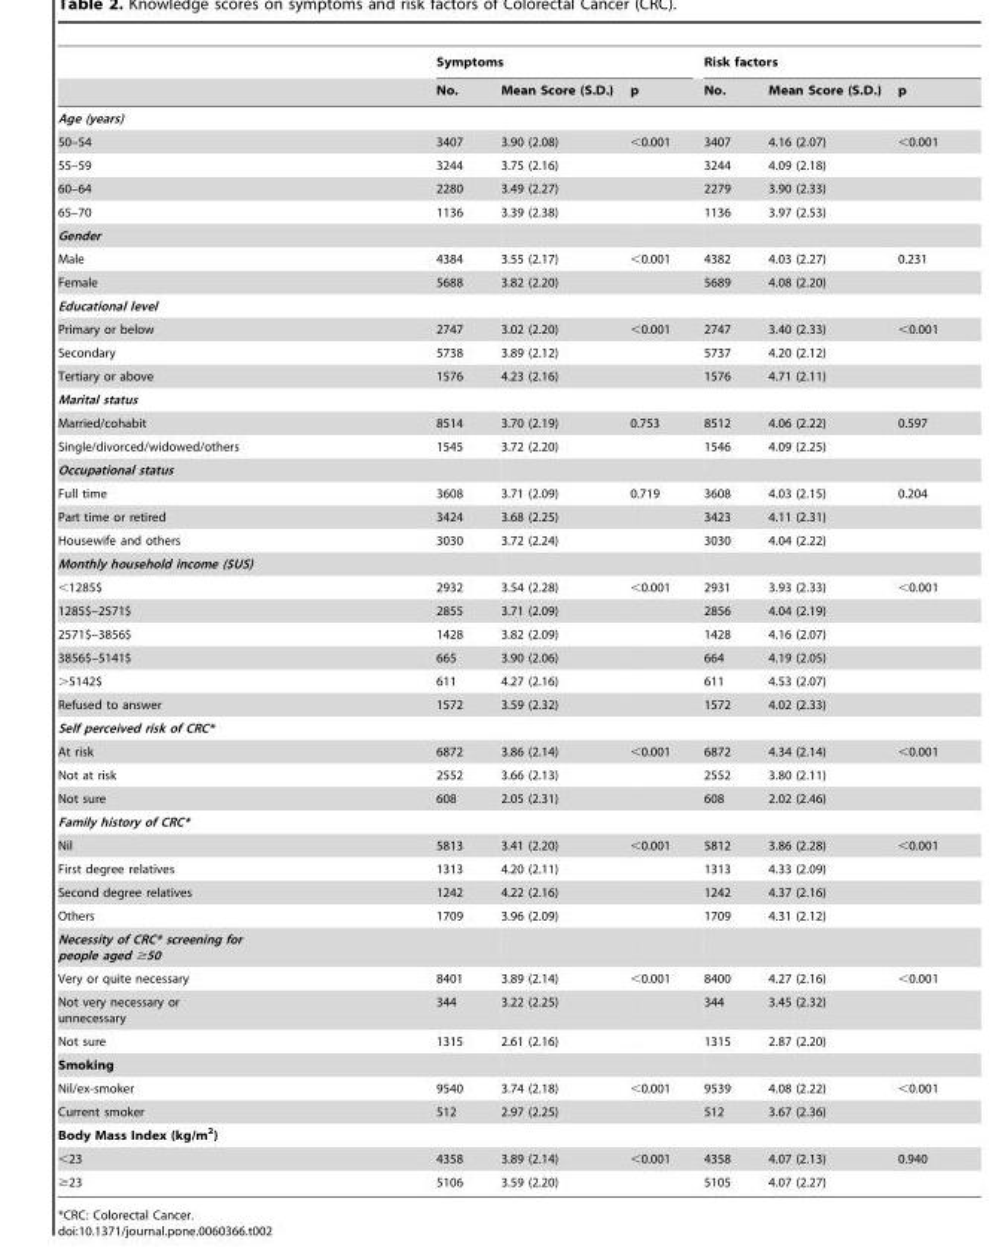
<table><thead><tr><td rowspan="2"></td><td colspan="3">Symptoms</td><td colspan="3">Risk factors</td></tr><tr><td>No.</td><td>Mean Score (S.D.)</td><td>p</td><td>No.</td><td>Mean Score (S.D.)</td><td>p</td></tr></thead><tbody><tr><td colspan="7">Age (years)</td></tr><tr><td>50–54</td><td>3407</td><td>3.90 (2.08)</td><td>&lt;0.001</td><td>3407</td><td>4.16 (2.07)</td><td>&lt;0.001</td></tr><tr><td>55–59</td><td>3244</td><td>3.75 (2.16)</td><td></td><td>3244</td><td>4.09 (2.18)</td><td></td></tr><tr><td>60–64</td><td>2280</td><td>3.49 (2.27)</td><td></td><td>2279</td><td>3.90 (2.33)</td><td></td></tr><tr><td>65–70</td><td>1136</td><td>3.39 (2.38)</td><td></td><td>1136</td><td>3.97 (2.53)</td><td></td></tr><tr><td colspan="7">Gender</td></tr><tr><td>Male</td><td>4384</td><td>3.55 (2.17)</td><td>&lt;0.001</td><td>4382</td><td>4.03 (2.27)</td><td>0.231</td></tr><tr><td>Female</td><td>5688</td><td>3.82 (2.20)</td><td></td><td>5689</td><td>4.08 (2.20)</td><td></td></tr><tr><td colspan="7">Educational level</td></tr><tr><td>Primary or below</td><td>2747</td><td>3.02 (2.20)</td><td>&lt;0.001</td><td>2747</td><td>3.40 (2.33)</td><td>&lt;0.001</td></tr><tr><td>Secondary</td><td>5738</td><td>3.89 (2.12)</td><td></td><td>5737</td><td>4.20 (2.12)</td><td></td></tr><tr><td>Tertiary or above</td><td>1576</td><td>4.23 (2.16)</td><td></td><td>1576</td><td>4.71 (2.11)</td><td></td></tr><tr><td colspan="7">Marital status</td></tr><tr><td>Married/cohabit</td><td>8514</td><td>3.70 (2.19)</td><td>0.753</td><td>8512</td><td>4.06 (2.22)</td><td>0.597</td></tr><tr><td>Single/divorced/widowed/others</td><td>1545</td><td>3.72 (2.20)</td><td></td><td>1546</td><td>4.09 (2.25)</td><td></td></tr><tr><td colspan="7">Occupational status</td></tr><tr><td>Full time</td><td>3608</td><td>3.71 (2.09)</td><td>0.719</td><td>3608</td><td>4.03 (2.15)</td><td>0.204</td></tr><tr><td>Part time or retired</td><td>3424</td><td>3.68 (2.25)</td><td></td><td>3423</td><td>4.11 (2.31)</td><td></td></tr><tr><td>Housewife and others</td><td>3030</td><td>3.72 (2.24)</td><td></td><td>3030</td><td>4.04 (2.22)</td><td></td></tr><tr><td colspan="7">Monthly household income ($US)</td></tr><tr><td>&lt;1285$</td><td>2932</td><td>3.54 (2.28)</td><td>&lt;0.001</td><td>2931</td><td>3.93 (2.33)</td><td>&lt;0.001</td></tr><tr><td>1285$–2571$</td><td>2855</td><td>3.71 (2.09)</td><td></td><td>2856</td><td>4.04 (2.19)</td><td></td></tr><tr><td>2571$–3856$</td><td>1428</td><td>3.82 (2.09)</td><td></td><td>1428</td><td>4.16 (2.07)</td><td></td></tr><tr><td>3856$–5141$</td><td>665</td><td>3.90 (2.06)</td><td></td><td>664</td><td>4.19 (2.05)</td><td></td></tr><tr><td>&gt;5142$</td><td>611</td><td>4.27 (2.16)</td><td></td><td>611</td><td>4.53 (2.07)</td><td></td></tr><tr><td>Refused to answer</td><td>1572</td><td>3.59 (2.32)</td><td></td><td>1572</td><td>4.02 (2.33)</td><td></td></tr><tr><td colspan="7">Self perceived risk of CRC*</td></tr><tr><td>At risk</td><td>6872</td><td>3.86 (2.14)</td><td>&lt;0.001</td><td>6872</td><td>4.34 (2.14)</td><td>&lt;0.001</td></tr><tr><td>Not at risk</td><td>2552</td><td>3.66 (2.13)</td><td></td><td>2552</td><td>3.80 (2.11)</td><td></td></tr><tr><td>Not sure</td><td>608</td><td>2.05 (2.31)</td><td></td><td>608</td><td>2.02 (2.46)</td><td></td></tr><tr><td colspan="7">Family history of CRC*</td></tr><tr><td>Nil</td><td>5813</td><td>3.41 (2.20)</td><td>&lt;0.001</td><td>5812</td><td>3.86 (2.28)</td><td>&lt;0.001</td></tr><tr><td>First degree relatives</td><td>1313</td><td>4.20 (2.11)</td><td></td><td>1313</td><td>4.33 (2.09)</td><td></td></tr><tr><td>Second degree relatives</td><td>1242</td><td>4.22 (2.16)</td><td></td><td>1242</td><td>4.37 (2.16)</td><td></td></tr><tr><td>Others</td><td>1709</td><td>3.96 (2.09)</td><td></td><td>1709</td><td>4.31 (2.12)</td><td></td></tr><tr><td colspan="7">Necessity of CRC* screening for people aged ≥50</td></tr><tr><td>Very or quite necessary</td><td>8401</td><td>3.89 (2.14)</td><td>&lt;0.001</td><td>8400</td><td>4.27 (2.16)</td><td>&lt;0.001</td></tr><tr><td>Not very necessary or unnecessary</td><td>344</td><td>3.22 (2.25)</td><td></td><td>344</td><td>3.45 (2.32)</td><td></td></tr><tr><td>Not sure</td><td>1315</td><td>2.61 (2.16)</td><td></td><td>1315</td><td>2.87 (2.20)</td><td></td></tr><tr><td colspan="7">Smoking</td></tr><tr><td>Nil/ex-smoker</td><td>9540</td><td>3.74 (2.18)</td><td>&lt;0.001</td><td>9539</td><td>4.08 (2.22)</td><td>&lt;0.001</td></tr><tr><td>Current smoker</td><td>512</td><td>2.97 (2.25)</td><td></td><td>512</td><td>3.67 (2.36)</td><td></td></tr><tr><td colspan="7">Body Mass Index (kg/m<sup>2</sup>)</td></tr><tr><td>&lt;23</td><td>4358</td><td>3.89 (2.14)</td><td>&lt;0.001</td><td>4358</td><td>4.07 (2.13)</td><td>0.940</td></tr><tr><td>≥23</td><td>5106</td><td>3.59 (2.20)</td><td></td><td>5105</td><td>4.07 (2.27)</td><td></td></tr></tbody></table>